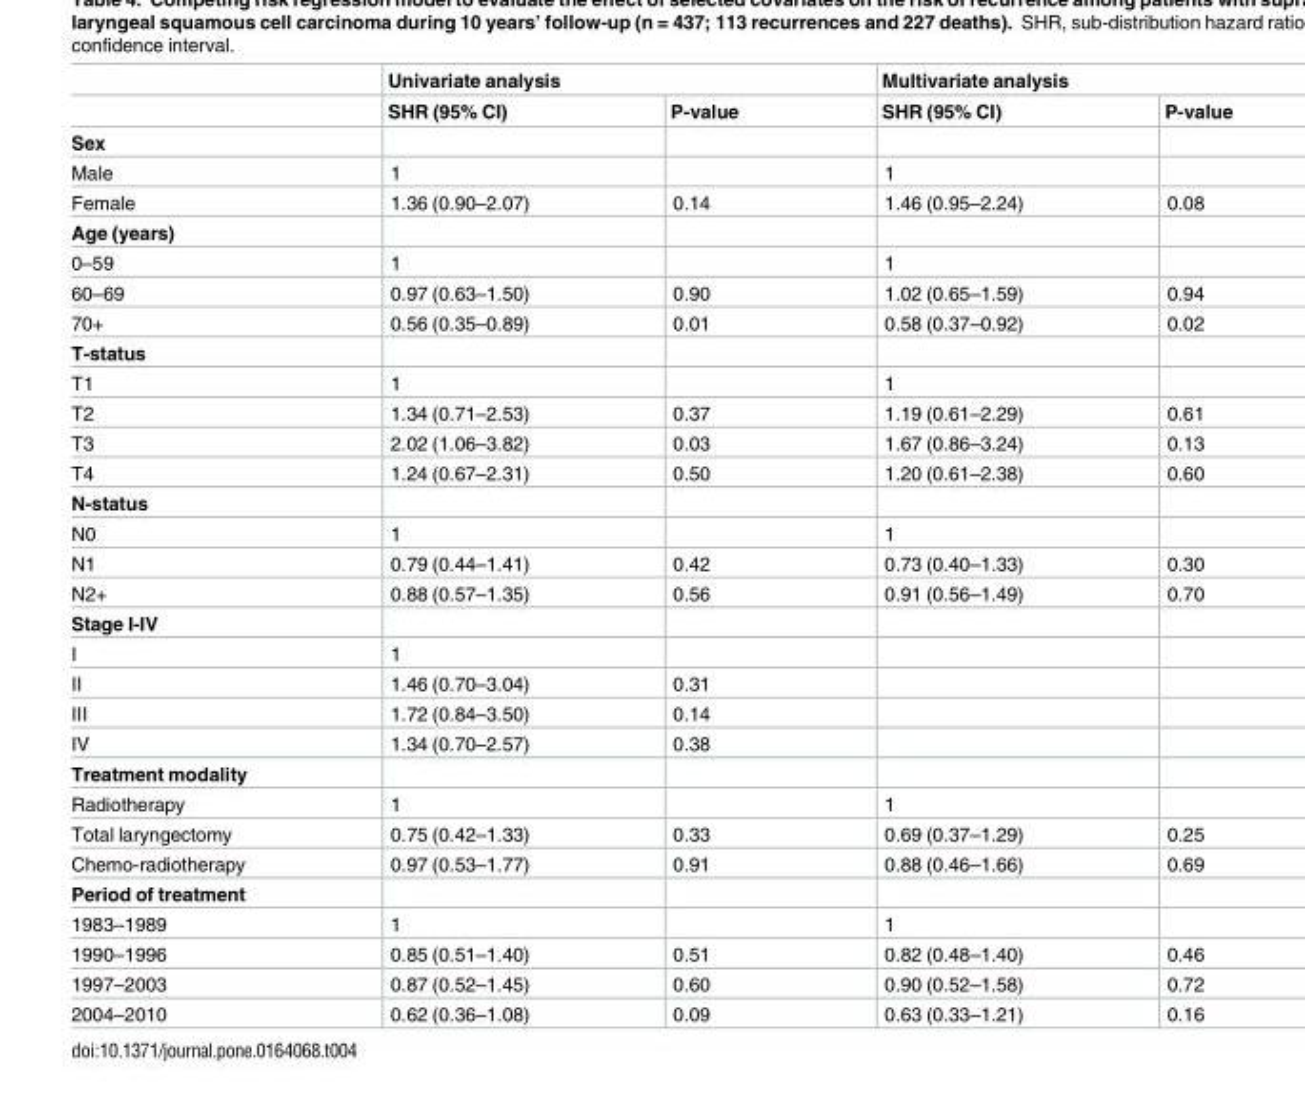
<table><thead><tr><td rowspan="2"></td><td colspan="2">Univariate analysis</td><td colspan="2">Multivariate analysis</td></tr><tr><td>SHR (95% CI)</td><td>P-value</td><td>SHR (95% CI)</td><td>P-value</td></tr></thead><tbody><tr><td colspan="5">Sex</td></tr><tr><td>Male</td><td>1</td><td></td><td>1</td><td></td></tr><tr><td>Female</td><td>1.36 (0.90–2.07)</td><td>0.14</td><td>1.46 (0.95–2.24)</td><td>0.08</td></tr><tr><td colspan="5">Age (years)</td></tr><tr><td>0–59</td><td>1</td><td></td><td>1</td><td></td></tr><tr><td>60–69</td><td>0.97 (0.63–1.50)</td><td>0.90</td><td>1.02 (0.65–1.59)</td><td>0.94</td></tr><tr><td>70+</td><td>0.56 (0.35–0.89)</td><td>0.01</td><td>0.58 (0.37–0.92)</td><td>0.02</td></tr><tr><td colspan="5">T-status</td></tr><tr><td>T1</td><td>1</td><td></td><td>1</td><td></td></tr><tr><td>T2</td><td>1.34 (0.71–2.53)</td><td>0.37</td><td>1.19 (0.61–2.29)</td><td>0.61</td></tr><tr><td>T3</td><td>2.02 (1.06–3.82)</td><td>0.03</td><td>1.67 (0.86–3.24)</td><td>0.13</td></tr><tr><td>T4</td><td>1.24 (0.67–2.31)</td><td>0.50</td><td>1.20 (0.61–2.38)</td><td>0.60</td></tr><tr><td colspan="5">N-status</td></tr><tr><td>N0</td><td>1</td><td></td><td>1</td><td></td></tr><tr><td>N1</td><td>0.79 (0.44–1.41)</td><td>0.42</td><td>0.73 (0.40–1.33)</td><td>0.30</td></tr><tr><td>N2+</td><td>0.88 (0.57–1.35)</td><td>0.56</td><td>0.91 (0.56–1.49)</td><td>0.70</td></tr><tr><td colspan="5">Stage I-IV</td></tr><tr><td>I</td><td>1</td><td></td><td></td><td></td></tr><tr><td>II</td><td>1.46 (0.70–3.04)</td><td>0.31</td><td></td><td></td></tr><tr><td>III</td><td>1.72 (0.84–3.50)</td><td>0.14</td><td></td><td></td></tr><tr><td>IV</td><td>1.34 (0.70–2.57)</td><td>0.38</td><td></td><td></td></tr><tr><td colspan="5">Treatment modality</td></tr><tr><td>Radiotherapy</td><td>1</td><td></td><td>1</td><td></td></tr><tr><td>Total laryngectomy</td><td>0.75 (0.42–1.33)</td><td>0.33</td><td>0.69 (0.37–1.29)</td><td>0.25</td></tr><tr><td>Chemo-radiotherapy</td><td>0.97 (0.53–1.77)</td><td>0.91</td><td>0.88 (0.46–1.66)</td><td>0.69</td></tr><tr><td colspan="5">Period of treatment</td></tr><tr><td>1983–1989</td><td>1</td><td></td><td>1</td><td></td></tr><tr><td>1990–1996</td><td>0.85 (0.51–1.40)</td><td>0.51</td><td>0.82 (0.48–1.40)</td><td>0.46</td></tr><tr><td>1997–2003</td><td>0.87 (0.52–1.45)</td><td>0.60</td><td>0.90 (0.52–1.58)</td><td>0.72</td></tr><tr><td>2004–2010</td><td>0.62 (0.36–1.08)</td><td>0.09</td><td>0.63 (0.33–1.21)</td><td>0.16</td></tr></tbody></table>